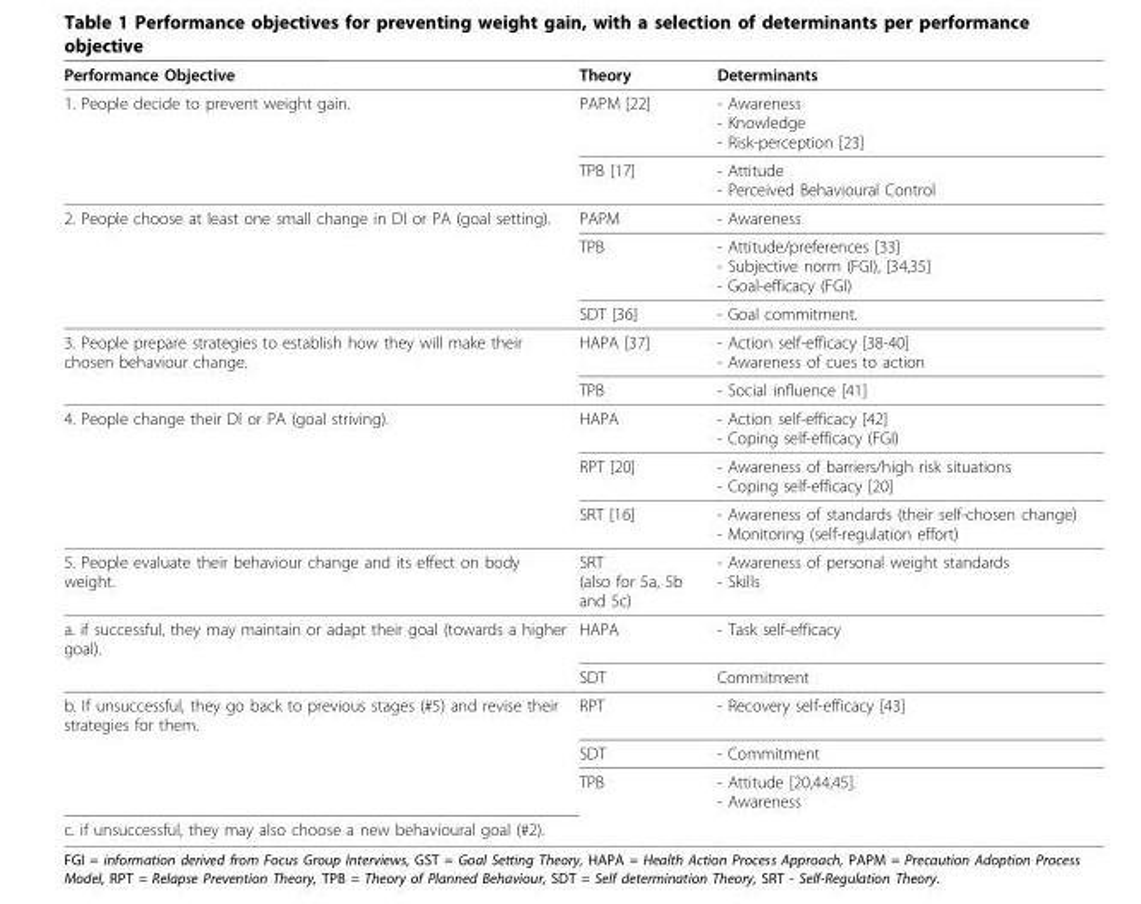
<table><thead><tr><td>Performance Objective</td><td>Theory</td><td>Determinants</td></tr></thead><tbody><tr><td rowspan="2">1. People decide to prevent weight gain.</td><td>PAPM [22]</td><td>- Awareness - Knowledge - Risk-perception [23]</td></tr><tr><td>TPB [17]</td><td>- Attitude - Perceived Behavioural Control</td></tr><tr><td rowspan="3">2. People choose at least one small change in DI or PA (goal setting).</td><td>PAPM</td><td>- Awareness</td></tr><tr><td>TPB</td><td>- Attitude/preferences [33] - Subjective norm (FGI), [34,35] - Goal-efficacy (FGI)</td></tr><tr><td>SDT [36]</td><td>- Goal commitment.</td></tr><tr><td rowspan="2">3. People prepare strategies to establish how they will make their chosen behaviour change.</td><td>HAPA [37]</td><td>- Action self-efficacy [38-40] - Awareness of cues to action</td></tr><tr><td>TPB</td><td>- Social influence [41]</td></tr><tr><td rowspan="3">4. People change their DI or PA (goal striving).</td><td>HAPA</td><td>- Action self-efficacy [42] - Coping self-efficacy (FGI)</td></tr><tr><td>RPT [20]</td><td>- Awareness of barriers/high risk situations - Coping self-efficacy [20]</td></tr><tr><td>SRT [16]</td><td>- Awareness of standards (their self-chosen change) - Monitoring (self-regulation effort)</td></tr><tr><td>5. People evaluate their behaviour change and its effect on body weight.</td><td>SRT (also for 5a, 5b and 5c)</td><td>- Awareness of personal weight standards - Skills</td></tr><tr><td rowspan="2">a. if successful, they may maintain or adapt their goal (towards a higher goal).</td><td>HAPA</td><td>- Task self-efficacy</td></tr><tr><td>SDT</td><td>Commitment</td></tr><tr><td rowspan="3">b. If unsuccessful, they go back to previous stages (#5) and revise their strategies for them.</td><td>RPT</td><td>- Recovery self-efficacy [43]</td></tr><tr><td>SDT</td><td>- Commitment</td></tr><tr><td>TPB</td><td>- Attitude [20,44,45]. - Awareness</td></tr><tr><td>c. if unsuccessful, they may also choose a new behavioural goal (#2).</td><td></td><td></td></tr></tbody></table>